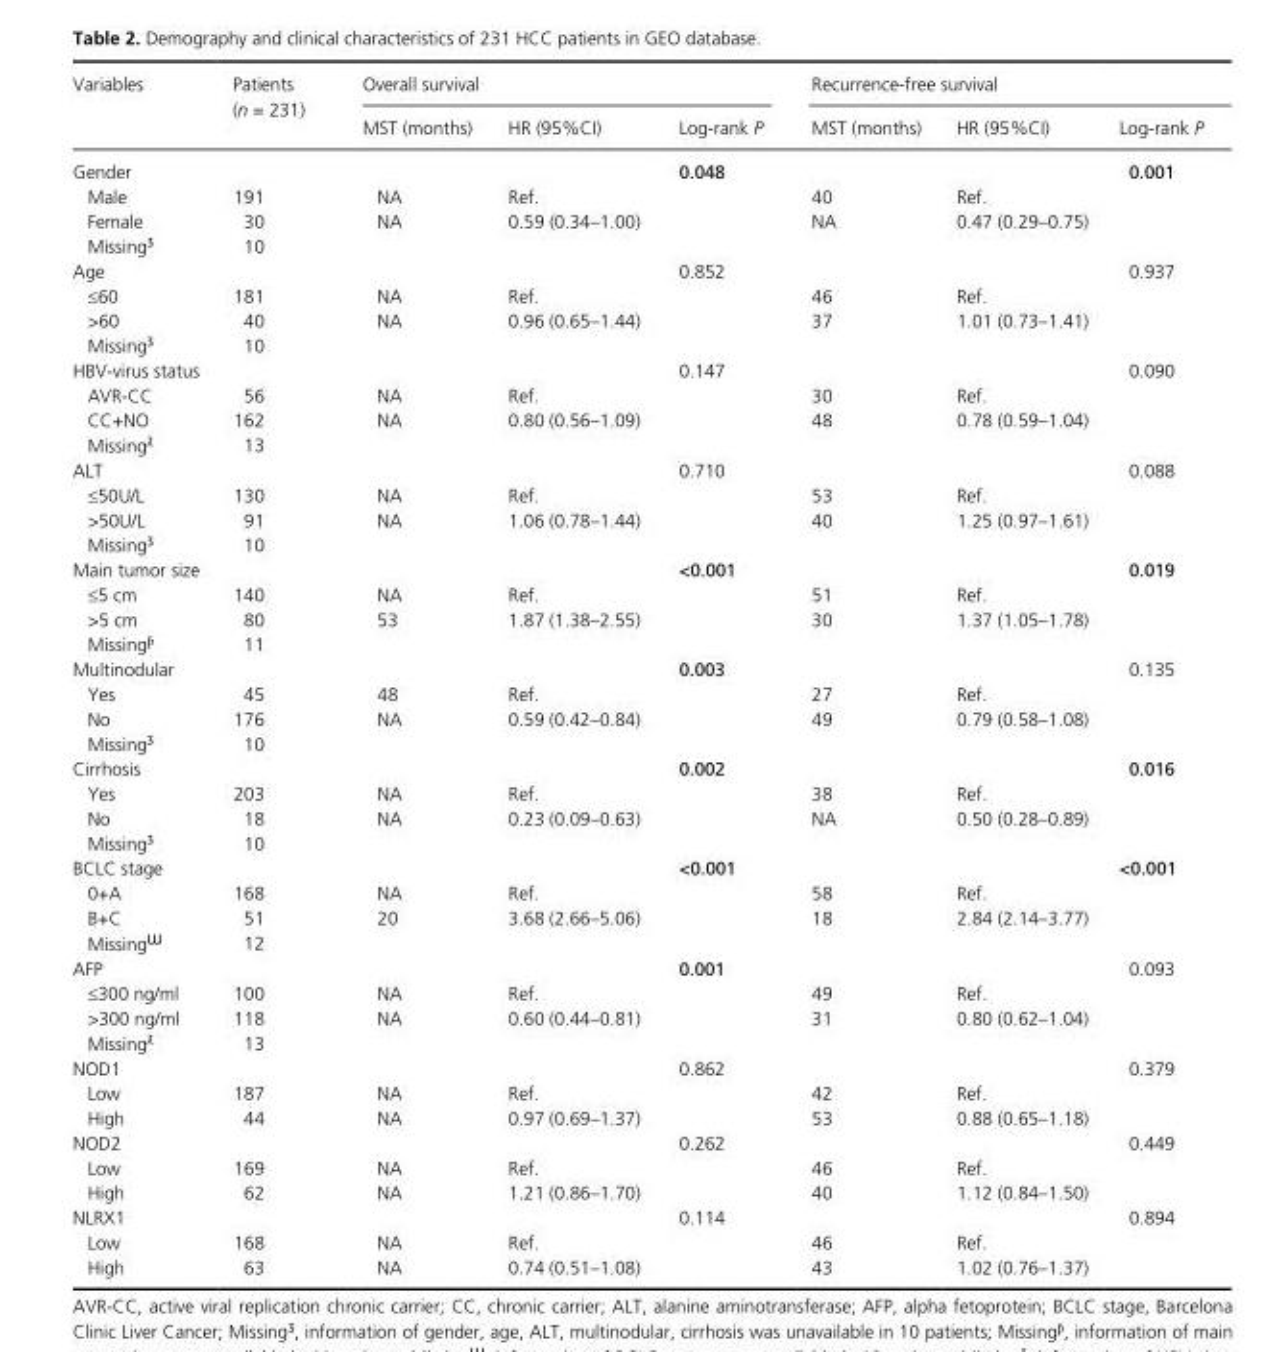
<table><thead><tr><td rowspan="2">Variables</td><td rowspan="2">Patients (n = 231)</td><td colspan="3">Overall survival</td><td colspan="3">Recurrence- free survival</td></tr><tr><td>MST (months)</td><td>HR (95%CI)</td><td>Log- rank P</td><td>MST (months)</td><td>HR (95%CI)</td><td>Log- rank P</td></tr></thead><tbody><tr><td>Gender</td><td></td><td></td><td></td><td>0.048</td><td></td><td></td><td>0.001</td></tr><tr><td>Male</td><td>191</td><td>NA</td><td>Ref.</td><td></td><td>40</td><td>Ref.</td><td></td></tr><tr><td>Female</td><td>30</td><td>NA</td><td>0.59 (0.34–1.00)</td><td></td><td>NA</td><td>0.47 (0.29–0.75)</td><td></td></tr><tr><td>Missing<sup>Ʒ</sup></td><td>10</td><td></td><td></td><td></td><td></td><td></td><td></td></tr><tr><td>Age</td><td></td><td></td><td></td><td>0.852</td><td></td><td></td><td>0.937</td></tr><tr><td>≤60</td><td>181</td><td>NA</td><td>Ref.</td><td></td><td>46</td><td>Ref.</td><td></td></tr><tr><td>&gt;60</td><td>40</td><td>NA</td><td>0.96 (0.65–1.44)</td><td></td><td>37</td><td>1.01 (0.73–1.41)</td><td></td></tr><tr><td>Missing<sup>Ʒ</sup></td><td>10</td><td></td><td></td><td></td><td></td><td></td><td></td></tr><tr><td>HBV- virus status</td><td></td><td></td><td></td><td>0.147</td><td></td><td></td><td>0.090</td></tr><tr><td>AVR- CC</td><td>56</td><td>NA</td><td>Ref.</td><td></td><td>30</td><td>Ref.</td><td></td></tr><tr><td>CC+NO</td><td>162</td><td>NA</td><td>0.80 (0.56–1.09)</td><td></td><td>48</td><td>0.78 (0.59–1.04)</td><td></td></tr><tr><td>Missing<sup>ƛ</sup></td><td>13</td><td></td><td></td><td></td><td></td><td></td><td></td></tr><tr><td>ALT</td><td></td><td></td><td></td><td>0.710</td><td></td><td></td><td>0.088</td></tr><tr><td>≤50U/L</td><td>130</td><td>NA</td><td>Ref.</td><td></td><td>53</td><td>Ref.</td><td></td></tr><tr><td>&gt;50U/L</td><td>91</td><td>NA</td><td>1.06 (0.78–1.44)</td><td></td><td>40</td><td>1.25 (0.97–1.61)</td><td></td></tr><tr><td>Missing<sup>Ʒ</sup></td><td>10</td><td></td><td></td><td></td><td></td><td></td><td></td></tr><tr><td>Main tumor size</td><td></td><td></td><td></td><td>&lt;0.001</td><td></td><td></td><td>0.019</td></tr><tr><td>≤5 cm</td><td>140</td><td>NA</td><td>Ref.</td><td></td><td>51</td><td>Ref.</td><td></td></tr><tr><td>&gt;5 cm</td><td>80</td><td>53</td><td>1.87 (1.38–2.55)</td><td></td><td>30</td><td>1.37 (1.05–1.78)</td><td></td></tr><tr><td>Missing<sup>ƥ</sup></td><td>11</td><td></td><td></td><td></td><td></td><td></td><td></td></tr><tr><td>Multinodular</td><td></td><td></td><td></td><td>0.003</td><td></td><td></td><td>0.135</td></tr><tr><td>Yes</td><td>45</td><td>48</td><td>Ref.</td><td></td><td>27</td><td>Ref.</td><td></td></tr><tr><td>No</td><td>176</td><td>NA</td><td>0.59 (0.42–0.84)</td><td></td><td>49</td><td>0.79 (0.58–1.08)</td><td></td></tr><tr><td>Missing<sup>Ʒ</sup></td><td>10</td><td></td><td></td><td></td><td></td><td></td><td></td></tr><tr><td>Cirrhosis</td><td></td><td></td><td></td><td>0.002</td><td></td><td></td><td>0.016</td></tr><tr><td>Yes</td><td>203</td><td>NA</td><td>Ref.</td><td></td><td>38</td><td>Ref.</td><td></td></tr><tr><td>No</td><td>18</td><td>NA</td><td>0.23 (0.09–0.63)</td><td></td><td>NA</td><td>0.50 (0.28–0.89)</td><td></td></tr><tr><td>Missing<sup>Ʒ</sup></td><td>10</td><td></td><td></td><td></td><td></td><td></td><td></td></tr><tr><td>BCLC stage</td><td></td><td></td><td></td><td>&lt;0.001</td><td></td><td></td><td>&lt;0.001</td></tr><tr><td>0+A</td><td>168</td><td>NA</td><td>Ref.</td><td></td><td>58</td><td>Ref.</td><td></td></tr><tr><td>B+C</td><td>51</td><td>20</td><td>3.68 (2.66–5.06)</td><td></td><td>18</td><td>2.84 (2.14–3.77)</td><td></td></tr><tr><td>Missing<sup>Ɯ</sup></td><td>12</td><td></td><td></td><td></td><td></td><td></td><td></td></tr><tr><td>AFP</td><td></td><td></td><td></td><td>0.001</td><td></td><td></td><td>0.093</td></tr><tr><td>≤300 ng/ml</td><td>100</td><td>NA</td><td>Ref.</td><td></td><td>49</td><td>Ref.</td><td></td></tr><tr><td>&gt;300 ng/ml</td><td>118</td><td>NA</td><td>0.60 (0.44–0.81)</td><td></td><td>31</td><td>0.80 (0.62–1.04)</td><td></td></tr><tr><td>Missing<sup>ƛ</sup></td><td>13</td><td></td><td></td><td></td><td></td><td></td><td></td></tr><tr><td>NOD1</td><td></td><td></td><td></td><td>0.862</td><td></td><td></td><td>0.379</td></tr><tr><td>Low</td><td>187</td><td>NA</td><td>Ref.</td><td></td><td>42</td><td>Ref.</td><td></td></tr><tr><td>High</td><td>44</td><td>NA</td><td>0.97 (0.69–1.37)</td><td></td><td>53</td><td>0.88 (0.65–1.18)</td><td></td></tr><tr><td>NOD2</td><td></td><td></td><td></td><td>0.262</td><td></td><td></td><td>0.449</td></tr><tr><td>Low</td><td>169</td><td>NA</td><td>Ref.</td><td></td><td>46</td><td>Ref.</td><td></td></tr><tr><td>High</td><td>62</td><td>NA</td><td>1.21 (0.86–1.70)</td><td></td><td>40</td><td>1.12 (0.84–1.50)</td><td></td></tr><tr><td>NLRX1</td><td></td><td></td><td></td><td>0.114</td><td></td><td></td><td>0.894</td></tr><tr><td>Low</td><td>168</td><td>NA</td><td>Ref.</td><td></td><td>46</td><td>Ref.</td><td></td></tr><tr><td>High</td><td>63</td><td>NA</td><td>0.74 (0.51–1.08)</td><td></td><td>43</td><td>1.02 (0.76–1.37)</td><td></td></tr></tbody></table>